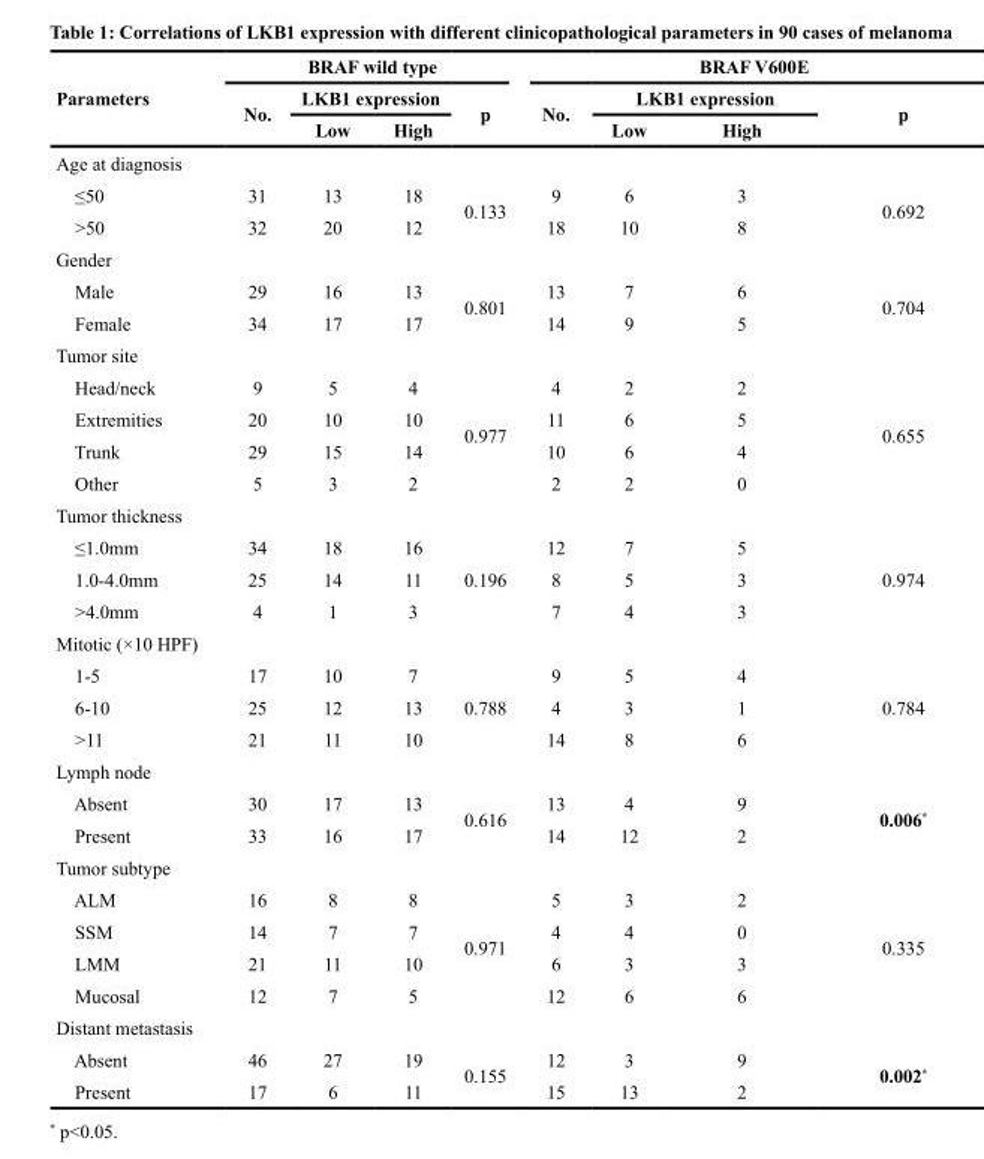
<table><thead><tr><td rowspan="3">Parameters</td><td colspan="4">BRAF wild type</td><td colspan="4">BRAF V600E</td></tr><tr><td rowspan="2">No.</td><td colspan="2">LKB1 expression</td><td rowspan="2">p</td><td rowspan="2">No.</td><td colspan="2">LKB1 expression</td><td rowspan="2">p</td></tr><tr><td>Low</td><td>High</td><td>Low</td><td>High</td></tr></thead><tbody><tr><td colspan="9">Age at diagnosis</td></tr><tr><td>≤50</td><td>31</td><td>13</td><td>18</td><td rowspan="2">0.133</td><td>9</td><td>6</td><td>3</td><td rowspan="2">0.692</td></tr><tr><td>&gt;50</td><td>32</td><td>20</td><td>12</td><td>18</td><td>10</td><td>8</td></tr><tr><td colspan="9">Gender</td></tr><tr><td>Male</td><td>29</td><td>16</td><td>13</td><td rowspan="2">0.801</td><td>13</td><td>7</td><td>6</td><td rowspan="2">0.704</td></tr><tr><td>Female</td><td>34</td><td>17</td><td>17</td><td>14</td><td>9</td><td>5</td></tr><tr><td colspan="9">Tumor site</td></tr><tr><td>Head/neck</td><td>9</td><td>5</td><td>4</td><td rowspan="4">0.977</td><td>4</td><td>2</td><td>2</td><td rowspan="4">0.655</td></tr><tr><td>Extremities</td><td>20</td><td>10</td><td>10</td><td>11</td><td>6</td><td>5</td></tr><tr><td>Trunk</td><td>29</td><td>15</td><td>14</td><td>10</td><td>6</td><td>4</td></tr><tr><td>Other</td><td>5</td><td>3</td><td>2</td><td>2</td><td>2</td><td>0</td></tr><tr><td colspan="9">Tumor thickness</td></tr><tr><td>≤1.0mm</td><td>34</td><td>18</td><td>16</td><td rowspan="3">0.196</td><td>12</td><td>7</td><td>5</td><td rowspan="3">0.974</td></tr><tr><td>1.0-4.0mm</td><td>25</td><td>14</td><td>11</td><td>8</td><td>5</td><td>3</td></tr><tr><td>&gt;4.0mm</td><td>4</td><td>1</td><td>3</td><td>7</td><td>4</td><td>3</td></tr><tr><td colspan="9">Mitotic (×10 HPF)</td></tr><tr><td>1-5</td><td>17</td><td>10</td><td>7</td><td rowspan="3">0.788</td><td>9</td><td>5</td><td>4</td><td rowspan="3">0.784</td></tr><tr><td>6-10</td><td>25</td><td>12</td><td>13</td><td>4</td><td>3</td><td>1</td></tr><tr><td>&gt;11</td><td>21</td><td>11</td><td>10</td><td>14</td><td>8</td><td>6</td></tr><tr><td colspan="9">Lymph node</td></tr><tr><td>Absent</td><td>30</td><td>17</td><td>13</td><td rowspan="2">0.616</td><td>13</td><td>4</td><td>9</td><td rowspan="2">0.006*</td></tr><tr><td>Present</td><td>33</td><td>16</td><td>17</td><td>14</td><td>12</td><td>2</td></tr><tr><td colspan="9">Tumor subtype</td></tr><tr><td>ALM</td><td>16</td><td>8</td><td>8</td><td rowspan="4">0.971</td><td>5</td><td>3</td><td>2</td><td rowspan="4">0.335</td></tr><tr><td>SSM</td><td>14</td><td>7</td><td>7</td><td>4</td><td>4</td><td>0</td></tr><tr><td>LMM</td><td>21</td><td>11</td><td>10</td><td>6</td><td>3</td><td>3</td></tr><tr><td>Mucosal</td><td>12</td><td>7</td><td>5</td><td>12</td><td>6</td><td>6</td></tr><tr><td colspan="9">Distant metastasis</td></tr><tr><td>Absent</td><td>46</td><td>27</td><td>19</td><td rowspan="2">0.155</td><td>12</td><td>3</td><td>9</td><td rowspan="2">0.002*</td></tr><tr><td>Present</td><td>17</td><td>6</td><td>11</td><td>15</td><td>13</td><td>2</td></tr></tbody></table>